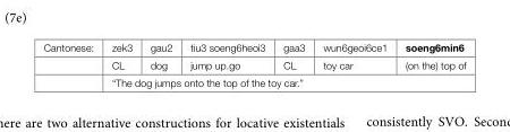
<table><tbody><tr><td rowspan="3">Cantonese:</td><td>zek3</td><td>gau2</td><td>tiu3 soeng6heoi3</td><td>gaa3</td><td>wun6geoi6ce1</td><td>soeng6min6</td></tr><tr><td>CL</td><td>dog</td><td>jump up.go</td><td>CL</td><td>toy car</td><td>(on the) top of</td></tr><tr><td colspan="6">“The dog jumps onto the top of the toy car.”</td></tr></tbody></table>